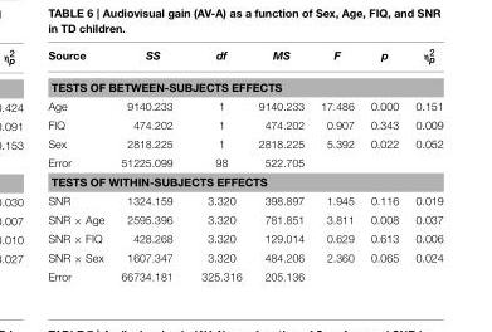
<table><thead><tr><td>Source</td><td>SS</td><td>df</td><td>MS</td><td>F</td><td>p</td><td>η<sup>2</sup><sub>p</sub></td></tr></thead><tbody><tr><td colspan="7">TESTS OF BETWEEN-SUBJECTS EFFECTS</td></tr><tr><td>Age</td><td>9140.233</td><td>1</td><td>9140.233</td><td>17.486</td><td>0.000</td><td>0.151</td></tr><tr><td>FIQ</td><td>474.202</td><td>1</td><td>474.202</td><td>0.907</td><td>0.343</td><td>0.009</td></tr><tr><td>Sex</td><td>2818.225</td><td>1</td><td>2818.225</td><td>5.392</td><td>0.022</td><td>0.052</td></tr><tr><td>Error</td><td>51225.099</td><td>98</td><td>522.705</td><td></td><td></td><td></td></tr><tr><td colspan="7">TESTS OF WITHIN-SUBJECTS EFFECTS</td></tr><tr><td>SNR</td><td>1324.159</td><td>3.320</td><td>398.897</td><td>1.945</td><td>0.116</td><td>0.019</td></tr><tr><td>SNR × Age</td><td>2595.396</td><td>3.320</td><td>781.851</td><td>3.811</td><td>0.008</td><td>0.037</td></tr><tr><td>SNR × FIQ</td><td>428.268</td><td>3.320</td><td>129.014</td><td>0.629</td><td>0.613</td><td>0.006</td></tr><tr><td>SNR × Sex</td><td>1607.347</td><td>3.320</td><td>484.206</td><td>2.360</td><td>0.065</td><td>0.024</td></tr><tr><td>Error</td><td>66734.181</td><td>325.316</td><td>205.136</td><td></td><td></td><td></td></tr></tbody></table>